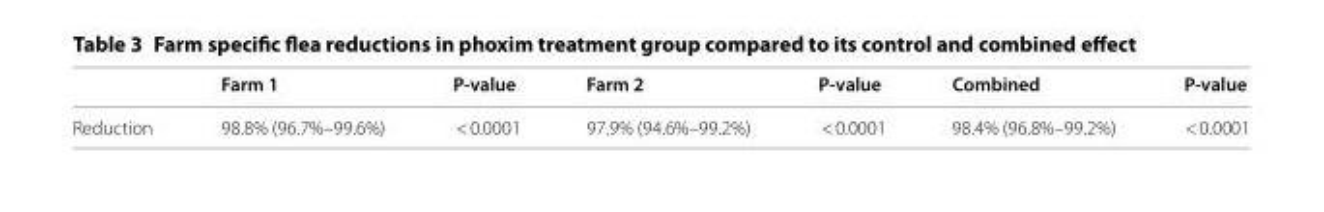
<table><thead><tr><td></td><td>Farm 1</td><td>P-value</td><td>Farm 2</td><td>P-value</td><td>Combined</td><td>P-value</td></tr></thead><tbody><tr><td>Reduction</td><td>98.8% (96.7%–99.6%)</td><td>&lt; 0.0001</td><td>97.9% (94.6%–99.2%)</td><td>&lt; 0.0001</td><td>98.4% (96.8%–99.2%)</td><td>&lt; 0.0001</td></tr></tbody></table>